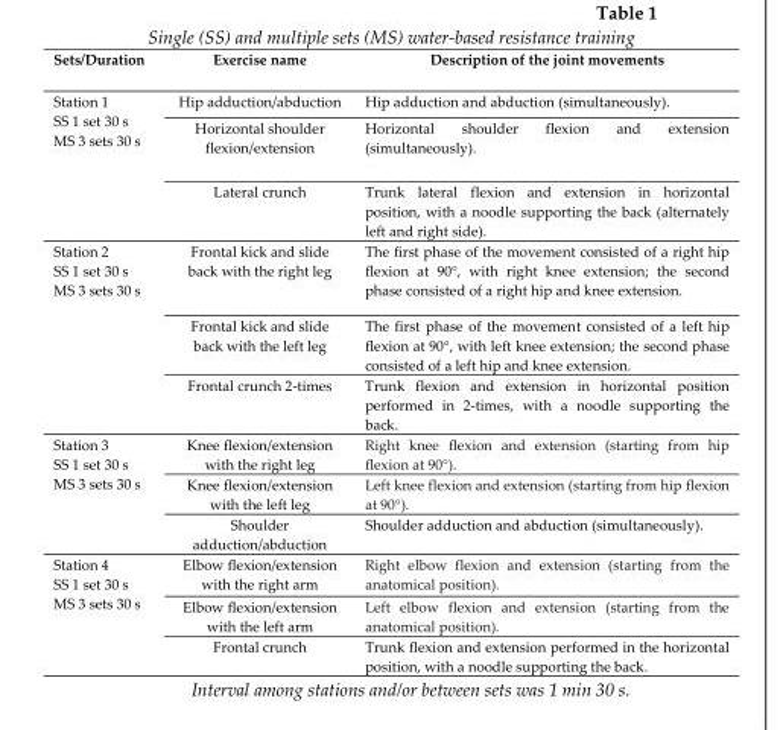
<table><thead><tr><td>Sets/Duration</td><td>Exercise name</td><td>Description of the joint movements</td></tr></thead><tbody><tr><td rowspan="3">Station 1 SS 1 set 30 s MS 3 sets 30 s</td><td>Hip adduction/abduction</td><td>Hip adduction and abduction (simultaneously).</td></tr><tr><td>Horizontal shoulder flexion/extension</td><td>Horizontal shoulder flexion and extension (simultaneously).</td></tr><tr><td>Lateral crunch</td><td>Trunk lateral flexion and extension in horizontal position, with a noodle supporting the back (alternately left and right side).</td></tr><tr><td rowspan="3">Station 2 SS 1 set 30 s MS 3 sets 30 s</td><td>Frontal kick and slide back with the right leg</td><td>The first phase of the movement consisted of a right hip flexion at 90°, with right knee extension; the second phase consisted of a right hip and knee extension.</td></tr><tr><td>Frontal kick and slide back with the left leg</td><td>The first phase of the movement consisted of a left hip flexion at 90°, with left knee extension; the second phase consisted of a left hip and knee extension.</td></tr><tr><td>Frontal crunch 2-times</td><td>Trunk flexion and extension in horizontal position performed in 2-times, with a noodle supporting the back.</td></tr><tr><td rowspan="3">Station 3 SS 1 set 30 s MS 3 sets 30 s</td><td>Knee flexion/extension with the right leg</td><td>Right knee flexion and extension (starting from hip flexion at 90°).</td></tr><tr><td>Knee flexion/extension with the left leg</td><td>Left knee flexion and extension (starting from hip flexion at 90°).</td></tr><tr><td>Shoulder adduction/abduction</td><td>Shoulder adduction and abduction (simultaneously).</td></tr><tr><td rowspan="3">Station 4 SS 1 set 30 s MS 3 sets 30 s</td><td>Elbow flexion/extension with the right arm</td><td>Right elbow flexion and extension (starting from the anatomical position).</td></tr><tr><td>Elbow flexion/extension with the left arm</td><td>Left elbow flexion and extension (starting from the anatomical position).</td></tr><tr><td>Frontal crunch</td><td>Trunk flexion and extension performed in the horizontal position, with a noodle supporting the back.</td></tr></tbody></table>